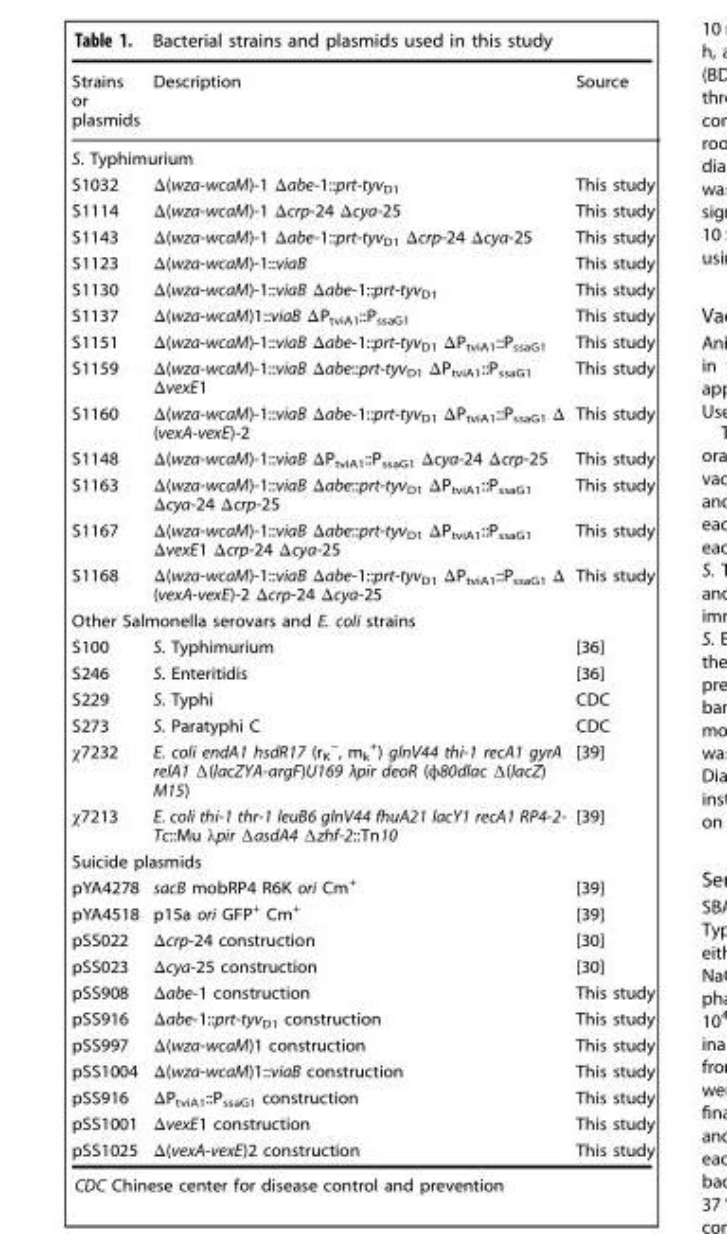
<table><thead><tr><td>Strains or plasmids</td><td>Description</td><td>Source</td></tr></thead><tbody><tr><td colspan="3">S. Typhimurium</td></tr><tr><td>S1032</td><td>Δ(wza-wcaM)-1 Δabe-1::prt-tyv<sub>D1</sub></td><td>This study</td></tr><tr><td>S1114</td><td>Δ(wza-wcaM)-1 Δcrp-24 Δcya-25</td><td>This study</td></tr><tr><td>S1143</td><td>Δ(wza-wcaM)-1 Δabe-1::prt-tyv<sub>D1</sub> Δcrp-24 Δcya-25</td><td>This study</td></tr><tr><td>S1123</td><td>Δ(wza-wcaM)-1::viaB</td><td>This study</td></tr><tr><td>S1130</td><td>Δ(wza-wcaM)-1::viaB Δabe-1::prt-tyv<sub>D1</sub></td><td>This study</td></tr><tr><td>S1137</td><td>Δ(wza-wcaM)1::viaB ΔP<sub>tviA1</sub>::P<sub>ssaG1</sub></td><td>This study</td></tr><tr><td>S1151</td><td>Δ(wza-wcaM)-1::viaB Δabe-1::prt-tyv<sub>D1</sub> ΔP<sub>tviA1</sub>::P<sub>ssaG1</sub></td><td>This study</td></tr><tr><td>S1159</td><td>Δ(wza-wcaM)-1::viaB Δabe::prt-tyv<sub>D1</sub> ΔP<sub>tviA1</sub>::P<sub>ssaG1</sub> ΔvexE1</td><td>This study</td></tr><tr><td>S1160</td><td>Δ(wza-wcaM)-1::viaB Δabe-1::prt-tyv<sub>D1</sub> ΔP<sub>tviA1</sub>::P<sub>ssaG1</sub> Δ (vexA-vexE)-2</td><td>This study</td></tr><tr><td>S1148</td><td>Δ(wza-wcaM)-1::viaB ΔP<sub>tviA1</sub>::P<sub>ssaG1</sub> Δcya-24 Δcrp-25</td><td>This study</td></tr><tr><td>S1163</td><td>Δ(wza-wcaM)-1::viaB Δabe::prt-tyv<sub>D1</sub> ΔP<sub>tviA1</sub>::P<sub>ssaG1</sub> Δcya-24 Δcrp-25</td><td>This study</td></tr><tr><td>S1167</td><td>Δ(wza-wcaM)-1::viaB Δabe::prt-tyv<sub>D1</sub> ΔP<sub>tviA1</sub>::P<sub>ssaG1</sub> ΔvexE1 Δcrp-24 Δcya-25</td><td>This study</td></tr><tr><td>S1168</td><td>Δ(wza-wcaM)-1::viaB Δabe-1::prt-tyv<sub>D1</sub> ΔP<sub>tviA1</sub>::P<sub>ssaG1</sub> Δ (vexA-vexE)-2 Δcrp-24 Δcya-25</td><td>This study</td></tr><tr><td colspan="3">Other Salmonella serovars and E. coli strains</td></tr><tr><td>S100</td><td>S. Typhimurium</td><td>[36]</td></tr><tr><td>S246</td><td>S. Enteritidis</td><td>[36]</td></tr><tr><td>S229</td><td>S. Typhi</td><td>CDC</td></tr><tr><td>S273</td><td>S. Paratyphi C</td><td>CDC</td></tr><tr><td>χ7232</td><td>E. coli endA1 hsdR17 (rK −, mk +) glnV44 thi-1 recA1 gyrA relA1 Δ(lacZYA-argF)U169 λpir deoR (ϕ80dlac Δ(lacZ) M15)</td><td>[39]</td></tr><tr><td>χ7213</td><td>E. coli thi-1 thr-1 leuB6 glnV44 fhuA21 lacY1 recA1 RP4-2- Tc::Mu λpir ΔasdA4 Δzhf-2::Tn10</td><td>[39]</td></tr><tr><td colspan="3">Suicide plasmids</td></tr><tr><td>pYA4278</td><td>sacB mobRP4 R6K ori Cm<sup>+</sup></td><td>[39]</td></tr><tr><td>pYA4518</td><td>p15a ori GFP<sup>+</sup> Cm<sup>+</sup></td><td>[39]</td></tr><tr><td>pSS022</td><td>Δcrp-24 construction</td><td>[30]</td></tr><tr><td>pSS023</td><td>Δcya-25 construction</td><td>[30]</td></tr><tr><td>pSS908</td><td>Δabe-1 construction</td><td>This study</td></tr><tr><td>pSS916</td><td>Δabe-1::prt-tyv<sub>D1</sub> construction</td><td>This study</td></tr><tr><td>pSS997</td><td>Δ(wza-wcaM)1 construction</td><td>This study</td></tr><tr><td>pSS1004</td><td>Δ(wza-wcaM)1::viaB construction</td><td>This study</td></tr><tr><td>pSS916</td><td>ΔP<sub>tviA1</sub>::P<sub>ssaG1</sub> construction</td><td>This study</td></tr><tr><td>pSS1001</td><td>ΔvexE1 construction</td><td>This study</td></tr><tr><td>pSS1025</td><td>Δ(vexA-vexE)2 construction</td><td>This study</td></tr></tbody></table>